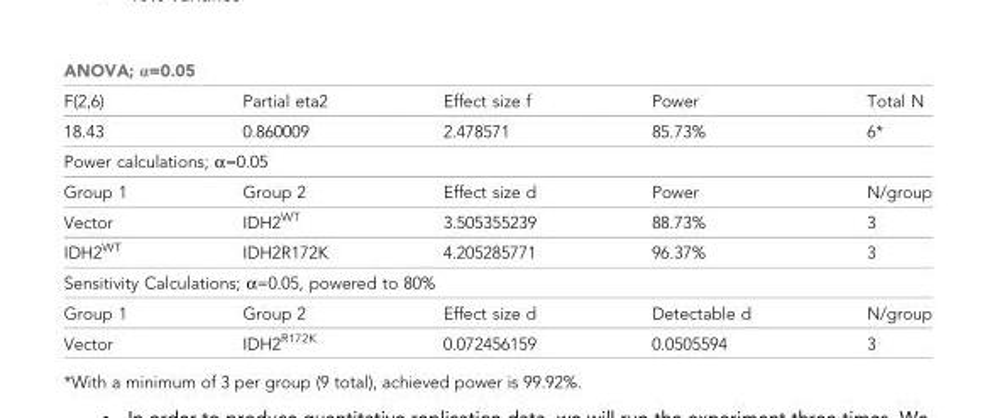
<table><thead><tr><td colspan="5">ANOVA; α=0.05</td></tr><tr><td>F(2,6)</td><td>Partial eta2</td><td>Effect size f</td><td>Power</td><td>Total N</td></tr></thead><tbody><tr><td>18.43</td><td>0.860009</td><td>2.478571</td><td>85.73%</td><td>6*</td></tr><tr><td colspan="5">Power calculations; α=0.05</td></tr><tr><td>Group 1</td><td>Group 2</td><td>Effect size d</td><td>Power</td><td>N/group</td></tr><tr><td>Vector</td><td>IDH2<sup>WT</sup></td><td>3.505355239</td><td>88.73%</td><td>3</td></tr><tr><td>IDH2<sup>WT</sup></td><td>IDH2R172K</td><td>4.205285771</td><td>96.37%</td><td>3</td></tr><tr><td colspan="5">Sensitivity Calculations; α=0.05, powered to 80%</td></tr><tr><td>Group 1</td><td>Group 2</td><td>Effect size d</td><td>Detectable d</td><td>N/group</td></tr><tr><td>Vector</td><td>IDH2<sup>R172K</sup></td><td>0.072456159</td><td>0.0505594</td><td>3</td></tr></tbody></table>